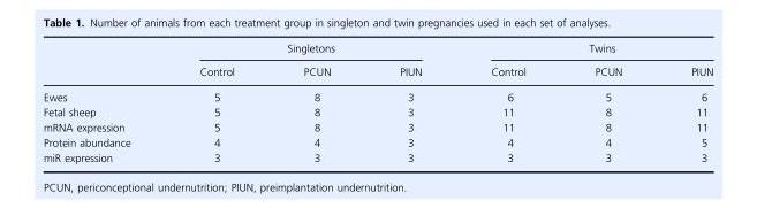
<table><thead><tr><td rowspan="2"></td><td colspan="3">Singletons</td><td colspan="3">Twins</td></tr><tr><td>Control</td><td>PCUN</td><td>PIUN</td><td>Control</td><td>PCUN</td><td>PIUN</td></tr></thead><tbody><tr><td>Ewes</td><td>5</td><td>8</td><td>3</td><td>6</td><td>5</td><td>6</td></tr><tr><td>Fetal sheep</td><td>5</td><td>8</td><td>3</td><td>11</td><td>8</td><td>11</td></tr><tr><td>mRNA expression</td><td>5</td><td>8</td><td>3</td><td>11</td><td>8</td><td>11</td></tr><tr><td>Protein abundance</td><td>4</td><td>4</td><td>3</td><td>4</td><td>4</td><td>5</td></tr><tr><td>miR expression</td><td>3</td><td>3</td><td>3</td><td>3</td><td>3</td><td>3</td></tr></tbody></table>